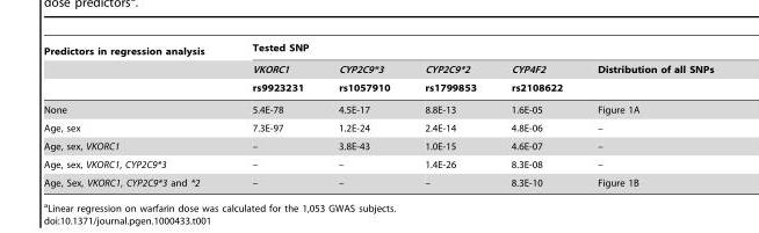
<table><thead><tr><td rowspan="3">Predictors in regression analysis</td><td colspan="5">Tested SNP</td></tr><tr><td rowspan="2">VKORC1 rs9923231</td><td rowspan="2">CYP2C9*3 rs1057910</td><td rowspan="2">CYP2C9*2 rs1799853</td><td rowspan="2">CYP4F2 rs2108622</td><td rowspan="2">Distribution of all SNPs</td></tr><tr></tr></thead><tbody><tr><td>None</td><td>5.4E-78</td><td>4.5E-17</td><td>8.8E-13</td><td>1.6E-05</td><td>Figure 1A</td></tr><tr><td>Age, sex</td><td>7.3E-97</td><td>1.2E-24</td><td>2.4E-14</td><td>4.8E-06</td><td>–</td></tr><tr><td>Age, sex, VKORC1</td><td>–</td><td>3.8E-43</td><td>1.0E-15</td><td>4.6E-07</td><td>–</td></tr><tr><td>Age, sex, VKORC1, CYP2C9*3</td><td>–</td><td>–</td><td>1.4E-26</td><td>8.3E-08</td><td>–</td></tr><tr><td>Age, Sex, VKORC1, CYP2C9*3 and *2</td><td>–</td><td>–</td><td>–</td><td>8.3E-10</td><td>Figure 1B</td></tr></tbody></table>